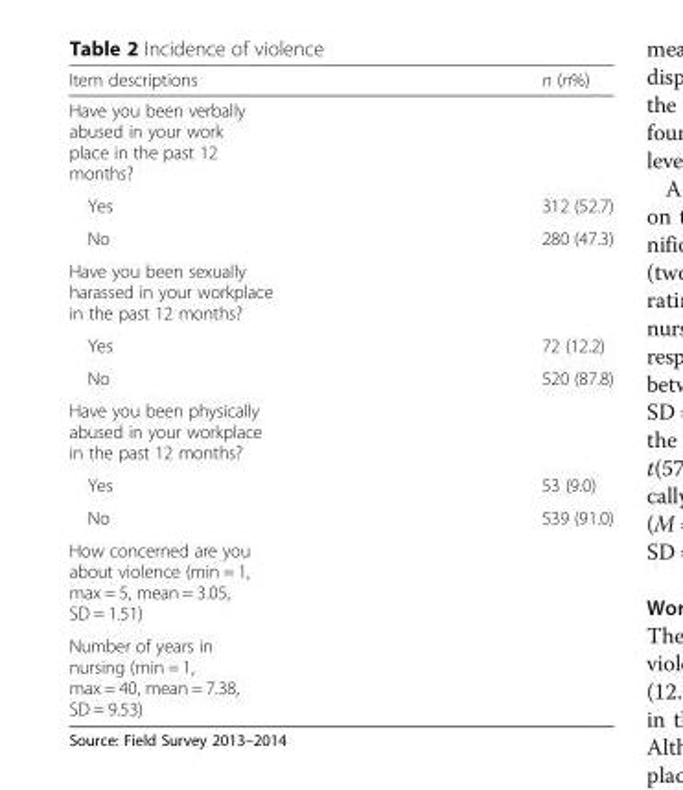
<table><thead><tr><td>Item descriptions</td><td>n (n%)</td></tr></thead><tbody><tr><td colspan="2">Have you been verbally abused in your work place in the past 12 months?</td></tr><tr><td>Yes</td><td>312 (52.7)</td></tr><tr><td>No</td><td>280 (47.3)</td></tr><tr><td colspan="2">Have you been sexually harassed in your workplace in the past 12 months?</td></tr><tr><td>Yes</td><td>72 (12.2)</td></tr><tr><td>No</td><td>520 (87.8)</td></tr><tr><td colspan="2">Have you been physically abused in your workplace in the past 12 months?</td></tr><tr><td>Yes</td><td>53 (9.0)</td></tr><tr><td>No</td><td>539 (91.0)</td></tr><tr><td colspan="2">How concerned are you about violence (min = 1, max = 5, mean = 3.05, SD = 1.51)</td></tr><tr><td colspan="2">Number of years in nursing (min = 1, max = 40, mean = 7.38, SD = 9.53)</td></tr></tbody></table>